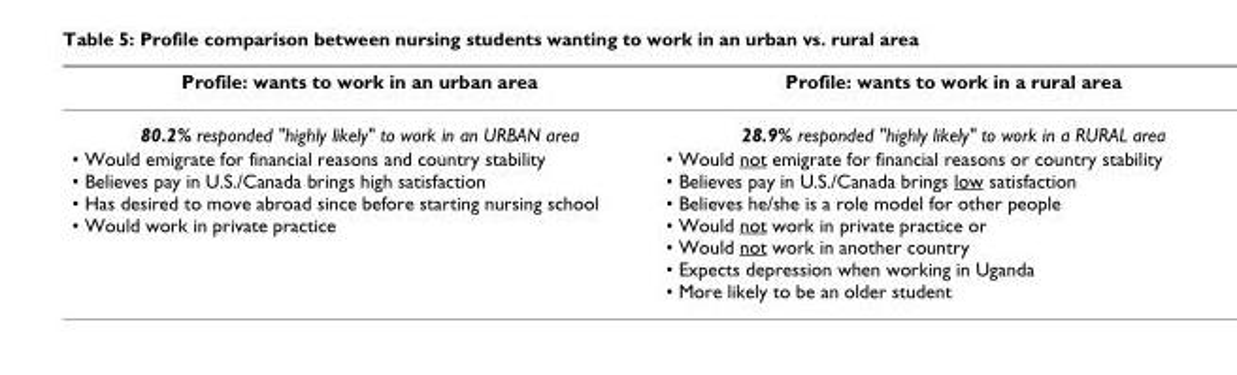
<table><thead><tr><td>Profile: wants to work in an urban area</td><td>Profile: wants to work in a rural area</td></tr></thead><tbody><tr><td>80.2% responded &quot;highly likely&quot; to work in an URBAN area</td><td>28.9% responded &quot;highly likely&quot; to work in a RURAL area</td></tr><tr><td>• Would emigrate for financial reasons and country stability • Believes pay in U.S./Canada brings high satisfaction • Has desired to move abroad since before starting nursing school • Would work in private practice</td><td>• Would not emigrate for financial reasons or country stability • Believes pay in U.S./Canada brings low satisfaction • Believes he/she is a role model for other people • Would not work in private practice or • Would not work in another country • Expects depression when working in Uganda • More likely to be an older student</td></tr></tbody></table>